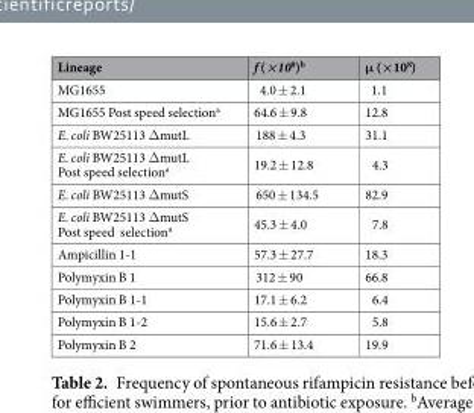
<table><thead><tr><td>Lineage</td><td>f (×10<sup>8</sup>)<sup>b</sup></td><td>μ (×10<sup>8</sup>)</td></tr></thead><tbody><tr><td>MG1655</td><td>4.0 ± 2.1</td><td>1.1</td></tr><tr><td>MG1655 Post speed selection<sup>a</sup></td><td>64.6 ± 9.8</td><td>12.8</td></tr><tr><td>E. coli BW25113 ΔmutL</td><td>188 ± 4.3</td><td>31.1</td></tr><tr><td>E. coli BW25113 ΔmutL Post speed selection<sup>a</sup></td><td>19.2 ± 12.8</td><td>4.3</td></tr><tr><td>E. coli BW25113 ΔmutS</td><td>650 ± 134.5</td><td>82.9</td></tr><tr><td>E. coli BW25113 ΔmutS Post speed selection<sup>a</sup></td><td>45.3 ± 4.0</td><td>7.8</td></tr><tr><td>Ampicillin 1-1</td><td>57.3 ± 27.7</td><td>18.3</td></tr><tr><td>Polymyxin B 1</td><td>312 ± 90</td><td>66.8</td></tr><tr><td>Polymyxin B 1-1</td><td>17.1 ± 6.2</td><td>6.4</td></tr><tr><td>Polymyxin B 1-2</td><td>15.6 ± 2.7</td><td>5.8</td></tr><tr><td>Polymyxin B 2</td><td>71.6 ± 13.4</td><td>19.9</td></tr></tbody></table>